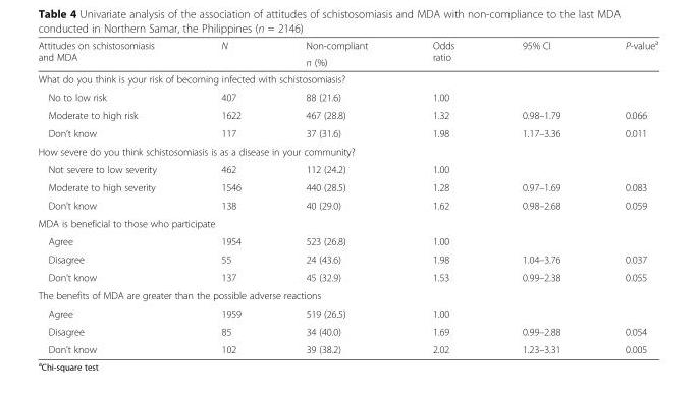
<table><thead><tr><td rowspan="2">Attitudes on schistosomiasis and MDA</td><td rowspan="2">N</td><td rowspan="2">Non-compliant n (%)</td><td rowspan="2">Odds ratio</td><td rowspan="2">95% CI</td><td rowspan="2">P-value<sup>a</sup></td></tr><tr></tr></thead><tbody><tr><td colspan="6">What do you think is your risk of becoming infected with schistosomiasis?</td></tr><tr><td>No to low risk</td><td>407</td><td>88 (21.6)</td><td>1.00</td><td></td><td></td></tr><tr><td>Moderate to high risk</td><td>1622</td><td>467 (28.8)</td><td>1.32</td><td>0.98–1.79</td><td>0.066</td></tr><tr><td>Don’t know</td><td>117</td><td>37 (31.6)</td><td>1.98</td><td>1.17–3.36</td><td>0.011</td></tr><tr><td colspan="6">How severe do you think schistosomiasis is as a disease in your community?</td></tr><tr><td>Not severe to low severity</td><td>462</td><td>112 (24.2)</td><td>1.00</td><td></td><td></td></tr><tr><td>Moderate to high severity</td><td>1546</td><td>440 (28.5)</td><td>1.28</td><td>0.97–1.69</td><td>0.083</td></tr><tr><td>Don’t know</td><td>138</td><td>40 (29.0)</td><td>1.62</td><td>0.98–2.68</td><td>0.059</td></tr><tr><td colspan="6">MDA is beneficial to those who participate</td></tr><tr><td>Agree</td><td>1954</td><td>523 (26.8)</td><td>1.00</td><td></td><td></td></tr><tr><td>Disagree</td><td>55</td><td>24 (43.6)</td><td>1.98</td><td>1.04–3.76</td><td>0.037</td></tr><tr><td>Don’t know</td><td>137</td><td>45 (32.9)</td><td>1.53</td><td>0.99–2.38</td><td>0.055</td></tr><tr><td colspan="6">The benefits of MDA are greater than the possible adverse reactions</td></tr><tr><td>Agree</td><td>1959</td><td>519 (26.5)</td><td>1.00</td><td></td><td></td></tr><tr><td>Disagree</td><td>85</td><td>34 (40.0)</td><td>1.69</td><td>0.99–2.88</td><td>0.054</td></tr><tr><td>Don’t know</td><td>102</td><td>39 (38.2)</td><td>2.02</td><td>1.23–3.31</td><td>0.005</td></tr></tbody></table>